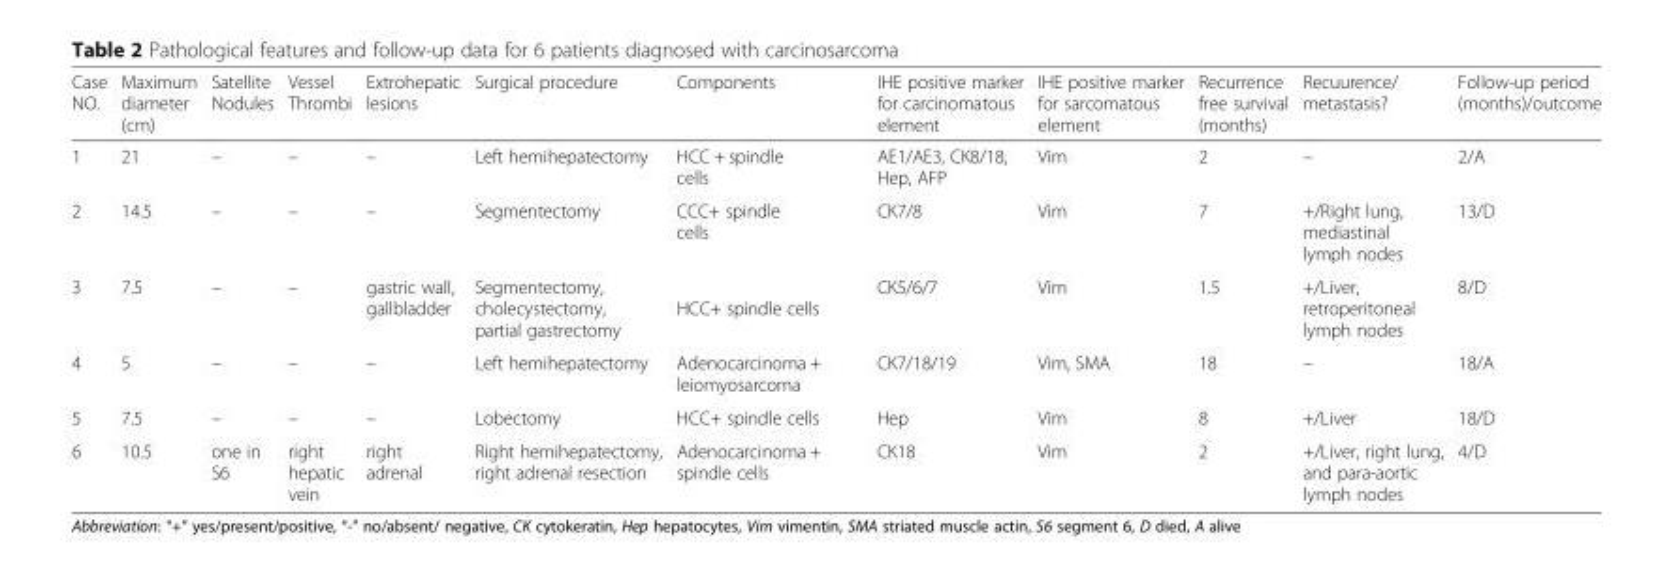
<table><thead><tr><td>Case NO.</td><td>Maximum diameter (cm)</td><td>Satellite Nodules</td><td>Vessel Thrombi</td><td>Extrohepatic lesions</td><td>Surgical procedure</td><td>Components</td><td>IHE positive marker for carcinomatous element</td><td>IHE positive marker for sarcomatous element</td><td>Recurrence free survival (months)</td><td>Recuurence/ metastasis?</td><td>Follow-up period (months)/outcome</td></tr></thead><tbody><tr><td>1</td><td>21</td><td>–</td><td>–</td><td>–</td><td>Left hemihepatectomy</td><td>HCC + spindle cells</td><td>AE1/AE3, CK8/18, Hep, AFP</td><td>Vim</td><td>2</td><td>–</td><td>2/A</td></tr><tr><td>2</td><td>14.5</td><td>–</td><td>–</td><td>–</td><td>Segmentectomy</td><td>CCC+ spindle cells</td><td>CK7/8</td><td>Vim</td><td>7</td><td>+/Right lung, mediastinal lymph nodes</td><td>13/D</td></tr><tr><td>3</td><td>7.5</td><td>–</td><td>–</td><td>gastric wall, gallbladder</td><td>Segmentectomy, cholecystectomy, partial gastrectomy</td><td>HCC+ spindle cells</td><td>CK5/6/7</td><td>Vim</td><td>1.5</td><td>+/Liver, retroperitoneal lymph nodes</td><td>8/D</td></tr><tr><td>4</td><td>5</td><td>–</td><td>–</td><td>–</td><td>Left hemihepatectomy</td><td>Adenocarcinoma + leiomyosarcoma</td><td>CK7/18/19</td><td>Vim, SMA</td><td>18</td><td>–</td><td>18/A</td></tr><tr><td>5</td><td>7.5</td><td>–</td><td>–</td><td>–</td><td>Lobectomy</td><td>HCC+ spindle cells</td><td>Hep</td><td>Vim</td><td>8</td><td>+/Liver</td><td>18/D</td></tr><tr><td>6</td><td>10.5</td><td>one in S6</td><td>right hepatic vein</td><td>right adrenal</td><td>Right hemihepatectomy, right adrenal resection</td><td>Adenocarcinoma + spindle cells</td><td>CK18</td><td>Vim</td><td>2</td><td>+/Liver, right lung, and para-aortic lymph nodes</td><td>4/D</td></tr></tbody></table>